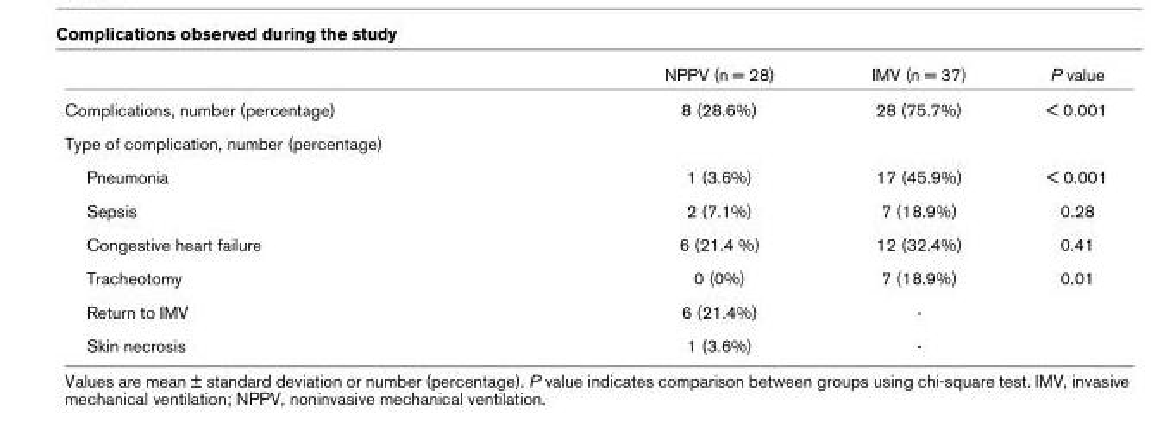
<table><thead><tr><td></td><td>NPPV (n = 28)</td><td>IMV (n = 37)</td><td>P value</td></tr></thead><tbody><tr><td>Complications, number (percentage)</td><td>8 (28.6%)</td><td>28 (75.7%)</td><td>&lt; 0.001</td></tr><tr><td colspan="4">Type of complication, number (percentage)</td></tr><tr><td>Pneumonia</td><td>1 (3.6%)</td><td>17 (45.9%)</td><td>&lt; 0.001</td></tr><tr><td>Sepsis</td><td>2 (7.1%)</td><td>7 (18.9%)</td><td>0.28</td></tr><tr><td>Congestive heart failure</td><td>6 (21.4 %)</td><td>12 (32.4%)</td><td>0.41</td></tr><tr><td>Tracheotomy</td><td>0 (0%)</td><td>7 (18.9%)</td><td>0.01</td></tr><tr><td>Return to IMV</td><td>6 (21.4%)</td><td>-</td><td></td></tr><tr><td>Skin necrosis</td><td>1 (3.6%)</td><td>-</td><td></td></tr></tbody></table>